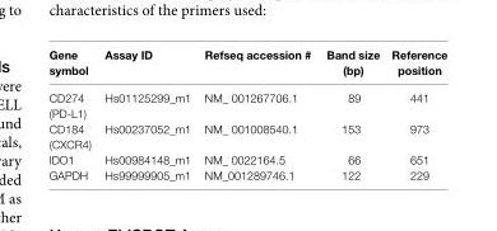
<table><thead><tr><td>gene symbol</td><td>assay iD</td><td>refseq accession #</td><td>band size (bp)</td><td>reference position</td></tr></thead><tbody><tr><td>CD274 (PD-L1)</td><td>Hs01125299_m1</td><td>NM_ 001267706.1</td><td>89</td><td>441</td></tr><tr><td>CD184 (CXCR4)</td><td>Hs00237052_m1</td><td>NM_ 001008540.1</td><td>153</td><td>973</td></tr><tr><td>IDO1</td><td>Hs00984148_m1</td><td>NM_ 0022164.5</td><td>66</td><td>651</td></tr><tr><td>GAPDH</td><td>Hs99999905_m1</td><td>NM_001289746.1</td><td>122</td><td>229</td></tr></tbody></table>